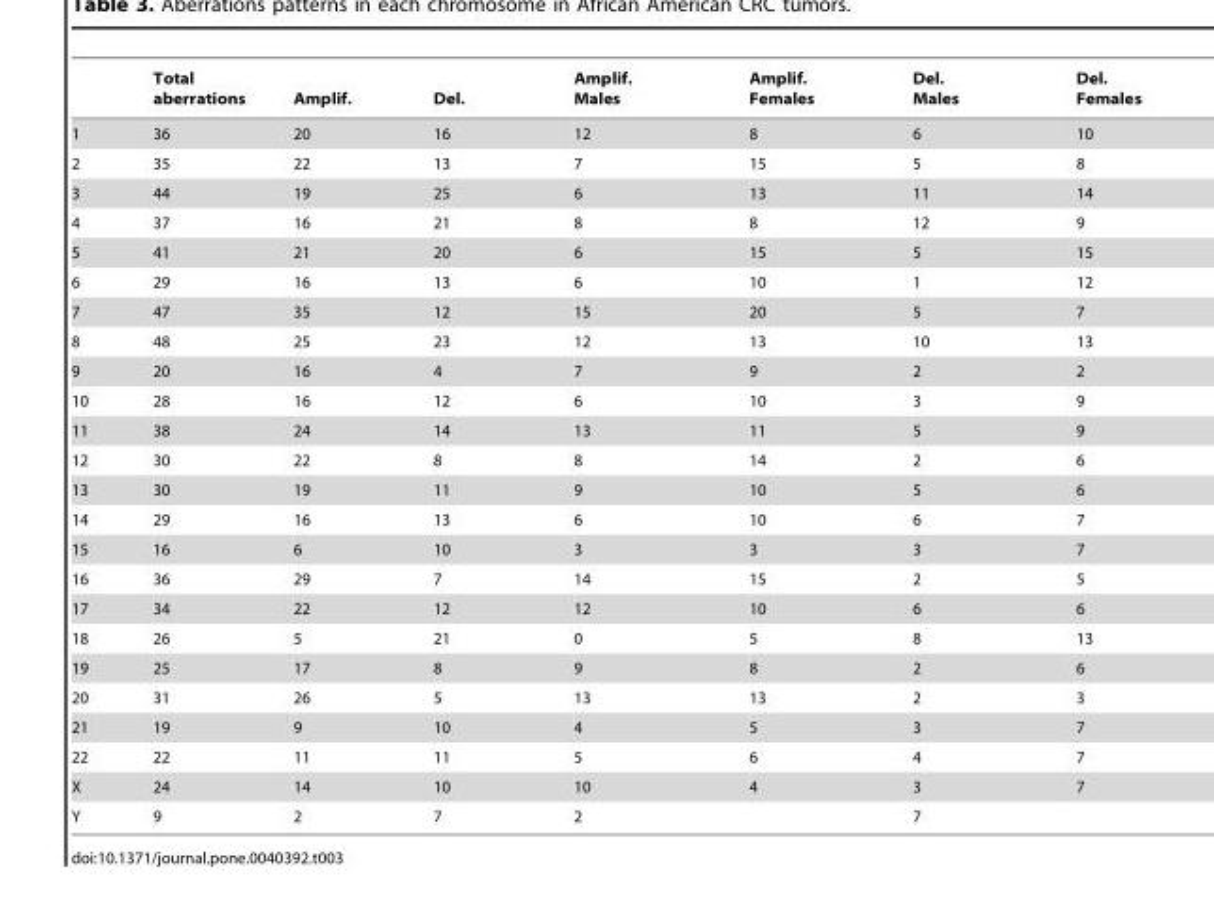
<table><thead><tr><td></td><td>Total aberrations</td><td>Amplif.</td><td>Del.</td><td>Amplif. Males</td><td>Amplif. Females</td><td>Del. Males</td><td>Del. Females</td></tr></thead><tbody><tr><td>1</td><td>36</td><td>20</td><td>16</td><td>12</td><td>8</td><td>6</td><td>10</td></tr><tr><td>2</td><td>35</td><td>22</td><td>13</td><td>7</td><td>15</td><td>5</td><td>8</td></tr><tr><td>3</td><td>44</td><td>19</td><td>25</td><td>6</td><td>13</td><td>11</td><td>14</td></tr><tr><td>4</td><td>37</td><td>16</td><td>21</td><td>8</td><td>8</td><td>12</td><td>9</td></tr><tr><td>5</td><td>41</td><td>21</td><td>20</td><td>6</td><td>15</td><td>5</td><td>15</td></tr><tr><td>6</td><td>29</td><td>16</td><td>13</td><td>6</td><td>10</td><td>1</td><td>12</td></tr><tr><td>7</td><td>47</td><td>35</td><td>12</td><td>15</td><td>20</td><td>5</td><td>7</td></tr><tr><td>8</td><td>48</td><td>25</td><td>23</td><td>12</td><td>13</td><td>10</td><td>13</td></tr><tr><td>9</td><td>20</td><td>16</td><td>4</td><td>7</td><td>9</td><td>2</td><td>2</td></tr><tr><td>10</td><td>28</td><td>16</td><td>12</td><td>6</td><td>10</td><td>3</td><td>9</td></tr><tr><td>11</td><td>38</td><td>24</td><td>14</td><td>13</td><td>11</td><td>5</td><td>9</td></tr><tr><td>12</td><td>30</td><td>22</td><td>8</td><td>8</td><td>14</td><td>2</td><td>6</td></tr><tr><td>13</td><td>30</td><td>19</td><td>11</td><td>9</td><td>10</td><td>5</td><td>6</td></tr><tr><td>14</td><td>29</td><td>16</td><td>13</td><td>6</td><td>10</td><td>6</td><td>7</td></tr><tr><td>15</td><td>16</td><td>6</td><td>10</td><td>3</td><td>3</td><td>3</td><td>7</td></tr><tr><td>16</td><td>36</td><td>29</td><td>7</td><td>14</td><td>15</td><td>2</td><td>5</td></tr><tr><td>17</td><td>34</td><td>22</td><td>12</td><td>12</td><td>10</td><td>6</td><td>6</td></tr><tr><td>18</td><td>26</td><td>5</td><td>21</td><td>0</td><td>5</td><td>8</td><td>13</td></tr><tr><td>19</td><td>25</td><td>17</td><td>8</td><td>9</td><td>8</td><td>2</td><td>6</td></tr><tr><td>20</td><td>31</td><td>26</td><td>5</td><td>13</td><td>13</td><td>2</td><td>3</td></tr><tr><td>21</td><td>19</td><td>9</td><td>10</td><td>4</td><td>5</td><td>3</td><td>7</td></tr><tr><td>22</td><td>22</td><td>11</td><td>11</td><td>5</td><td>6</td><td>4</td><td>7</td></tr><tr><td>X</td><td>24</td><td>14</td><td>10</td><td>10</td><td>4</td><td>3</td><td>7</td></tr><tr><td>Y</td><td>9</td><td>2</td><td>7</td><td>2</td><td></td><td>7</td><td></td></tr></tbody></table>